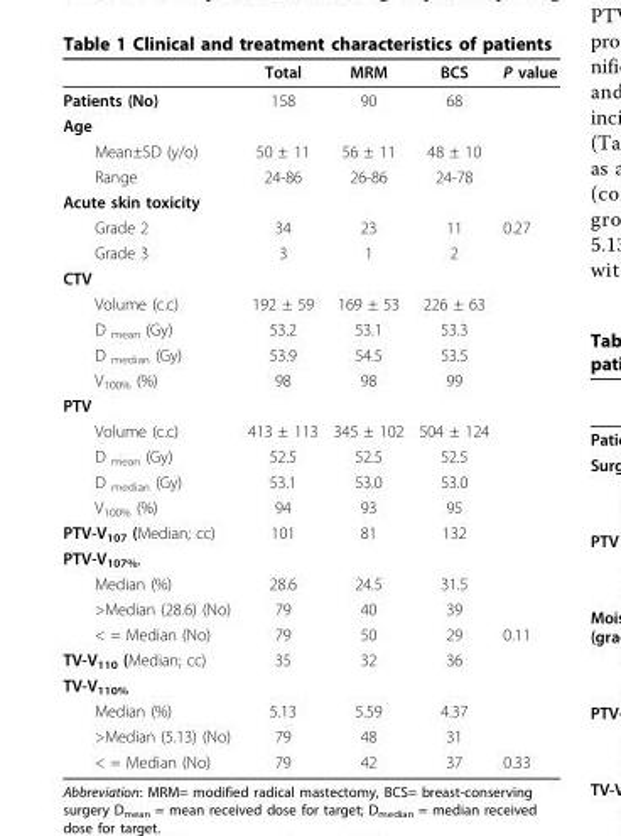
<table><thead><tr><td></td><td>Total</td><td>MRM</td><td>BCS</td><td>P value</td></tr></thead><tbody><tr><td>Patients (No)</td><td>158</td><td>90</td><td>68</td><td></td></tr><tr><td colspan="5">Age</td></tr><tr><td>Mean±SD (y/o)</td><td>50 ± 11</td><td>56 ± 11</td><td>48 ± 10</td><td></td></tr><tr><td>Range</td><td>24-86</td><td>26-86</td><td>24-78</td><td></td></tr><tr><td colspan="5">Acute skin toxicity</td></tr><tr><td>Grade 2</td><td>34</td><td>23</td><td>11</td><td>0.27</td></tr><tr><td>Grade 3</td><td>3</td><td>1</td><td>2</td><td></td></tr><tr><td colspan="5">CTV</td></tr><tr><td>Volume (c.c)</td><td>192 ± 59</td><td>169 ± 53</td><td>226 ± 63</td><td></td></tr><tr><td>D <sub>mean</sub> (Gy)</td><td>53.2</td><td>53.1</td><td>53.3</td><td></td></tr><tr><td>D <sub>median</sub> (Gy)</td><td>53.9</td><td>54.5</td><td>53.5</td><td></td></tr><tr><td>V<sub>100%</sub> (%)</td><td>98</td><td>98</td><td>99</td><td></td></tr><tr><td colspan="5">PTV</td></tr><tr><td>Volume (c.c)</td><td>413 ± 113</td><td>345 ± 102</td><td>504 ± 124</td><td></td></tr><tr><td>D <sub>mean</sub> (Gy)</td><td>52.5</td><td>52.5</td><td>52.5</td><td></td></tr><tr><td>D <sub>median</sub> (Gy)</td><td>53.1</td><td>53.0</td><td>53.0</td><td></td></tr><tr><td>V<sub>100%</sub> (%)</td><td>94</td><td>93</td><td>95</td><td></td></tr><tr><td>PTV-V<sub>107</sub> (Median; cc)</td><td>101</td><td>81</td><td>132</td><td></td></tr><tr><td colspan="5">PTV-V<sub>107%</sub>,</td></tr><tr><td>Median (%)</td><td>28.6</td><td>24.5</td><td>31.5</td><td></td></tr><tr><td>&gt;Median (28.6) (No)</td><td>79</td><td>40</td><td>39</td><td></td></tr><tr><td>&lt; = Median (No)</td><td>79</td><td>50</td><td>29</td><td>0.11</td></tr><tr><td>TV-V<sub>110</sub> (Median; cc)</td><td>35</td><td>32</td><td>36</td><td></td></tr><tr><td colspan="5">TV-V<sub>110%</sub></td></tr><tr><td>Median (%)</td><td>5.13</td><td>5.59</td><td>4.37</td><td></td></tr><tr><td>&gt;Median (5.13) (No)</td><td>79</td><td>48</td><td>31</td><td></td></tr><tr><td>&lt; = Median (No)</td><td>79</td><td>42</td><td>37</td><td>0.33</td></tr></tbody></table>